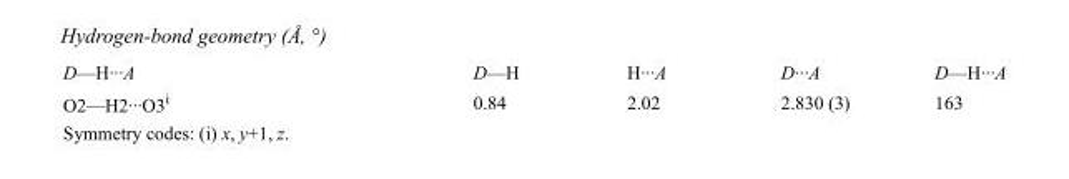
<table><tbody><tr><td>D—H···A</td><td>D—H</td><td>H···A</td><td>D···A</td><td>D—H···A</td></tr><tr><td>O2—H2···O3<sup>i</sup></td><td>0.84</td><td>2.02</td><td>2.830 (3)</td><td>163</td></tr></tbody></table>